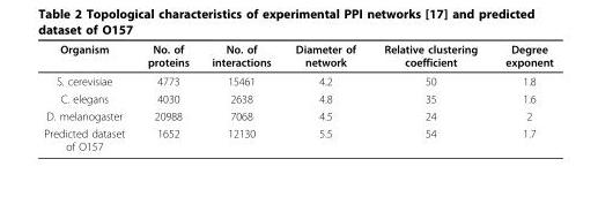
<table><thead><tr><td>Organism</td><td>No. of proteins</td><td>No. of interactions</td><td>Diameter of network</td><td>Relative clustering coefficient</td><td>Degree exponent</td></tr></thead><tbody><tr><td>S. cerevisiae</td><td>4773</td><td>15461</td><td>4.2</td><td>50</td><td>1.8</td></tr><tr><td>C. elegans</td><td>4030</td><td>2638</td><td>4.8</td><td>35</td><td>1.6</td></tr><tr><td>D. melanogaster</td><td>20988</td><td>7068</td><td>4.5</td><td>24</td><td>2</td></tr><tr><td>Predicted dataset of O157</td><td>1652</td><td>12130</td><td>5.5</td><td>54</td><td>1.7</td></tr></tbody></table>